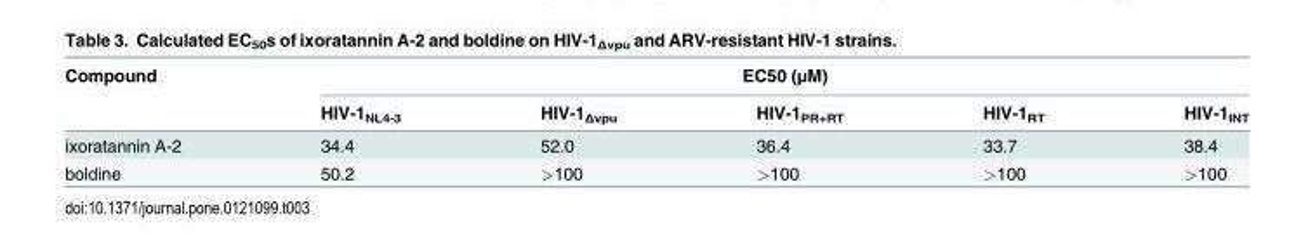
<table><thead><tr><td rowspan="2">Compound</td><td colspan="5">EC50 (μM)</td></tr><tr><td>HIV-1<sub>NL4-3</sub></td><td>HIV-1<sub>Δvpu</sub></td><td>HIV-1<sub>PR+RT</sub></td><td>HIV-1<sub>RT</sub></td><td>HIV-1<sub>INT</sub></td></tr></thead><tbody><tr><td>ixoratannin A-2</td><td>34.4</td><td>52.0</td><td>36.4</td><td>33.7</td><td>38.4</td></tr><tr><td>boldine</td><td>50.2</td><td>&gt;100</td><td>&gt;100</td><td>&gt;100</td><td>&gt;100</td></tr></tbody></table>